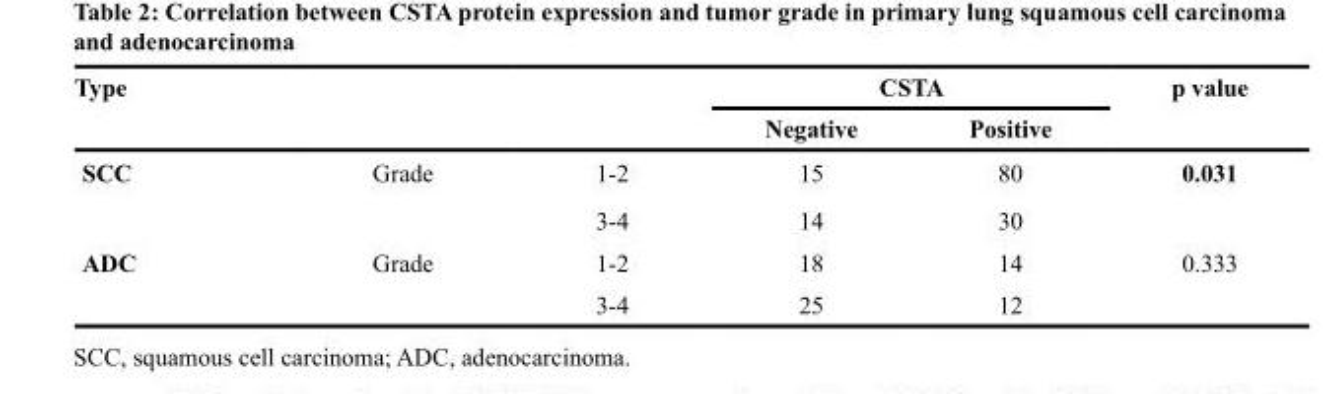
<table><thead><tr><td rowspan="2">Type</td><td rowspan="2"></td><td rowspan="2"></td><td colspan="2">CSTA</td><td rowspan="2">p value</td></tr><tr><td>Negative</td><td>Positive</td></tr></thead><tbody><tr><td rowspan="2">SCC</td><td rowspan="2">Grade</td><td>1-2</td><td>15</td><td>80</td><td rowspan="2">0.031</td></tr><tr><td>3-4</td><td>14</td><td>30</td></tr><tr><td rowspan="2">ADC</td><td rowspan="2">Grade</td><td>1-2</td><td>18</td><td>14</td><td rowspan="2">0.333</td></tr><tr><td>3-4</td><td>25</td><td>12</td></tr></tbody></table>